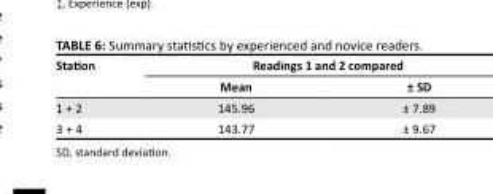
<table><thead><tr><td rowspan="2">Station</td><td colspan="2">Readings 1 and 2 compared</td></tr><tr><td>Mean</td><td>± SD</td></tr></thead><tbody><tr><td>1 + 2</td><td>145.96</td><td>± 7.89</td></tr><tr><td>3 + 4</td><td>143.77</td><td>± 9.67</td></tr></tbody></table>